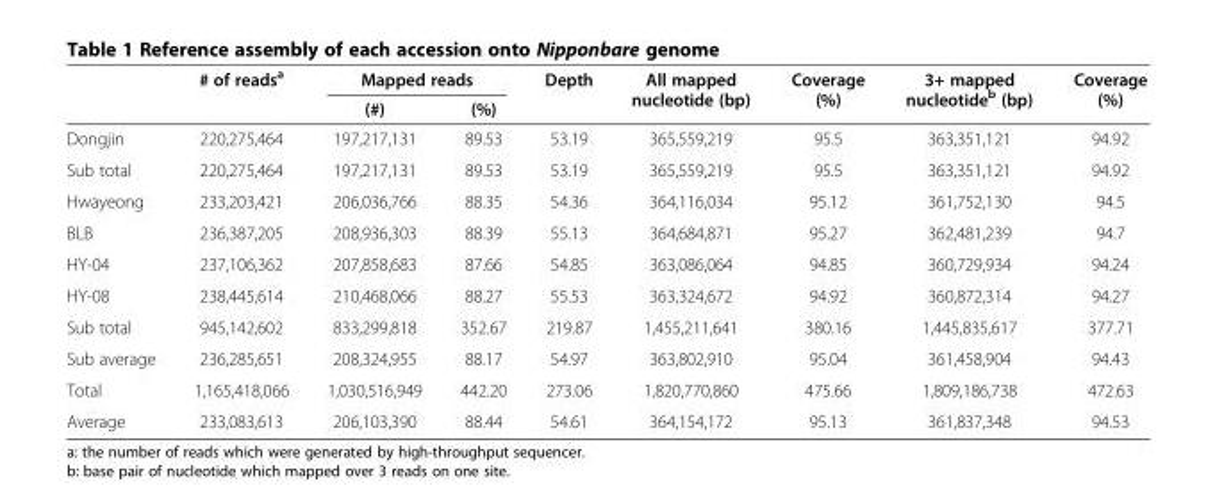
<table><thead><tr><td rowspan="2"></td><td rowspan="2"># of reads<sup>a</sup></td><td colspan="2">Mapped reads</td><td rowspan="2">Depth</td><td rowspan="2">All mapped nucleotide (bp)</td><td rowspan="2">Coverage (%)</td><td rowspan="2">3+ mapped nucleotide<sup>b</sup> (bp)</td><td rowspan="2">Coverage (%)</td></tr><tr><td>(#)</td><td>(%)</td></tr></thead><tbody><tr><td>Dongjin</td><td>220,275,464</td><td>197,217,131</td><td>89.53</td><td>53.19</td><td>365,559,219</td><td>95.5</td><td>363,351,121</td><td>94.92</td></tr><tr><td>Sub total</td><td>220,275,464</td><td>197,217,131</td><td>89.53</td><td>53.19</td><td>365,559,219</td><td>95.5</td><td>363,351,121</td><td>94.92</td></tr><tr><td>Hwayeong</td><td>233,203,421</td><td>206,036,766</td><td>88.35</td><td>54.36</td><td>364,116,034</td><td>95.12</td><td>361,752,130</td><td>94.5</td></tr><tr><td>BLB</td><td>236,387,205</td><td>208,936,303</td><td>88.39</td><td>55.13</td><td>364,684,871</td><td>95.27</td><td>362,481,239</td><td>94.7</td></tr><tr><td>HY-04</td><td>237,106,362</td><td>207,858,683</td><td>87.66</td><td>54.85</td><td>363,086,064</td><td>94.85</td><td>360,729,934</td><td>94.24</td></tr><tr><td>HY-08</td><td>238,445,614</td><td>210,468,066</td><td>88.27</td><td>55.53</td><td>363,324,672</td><td>94.92</td><td>360,872,314</td><td>94.27</td></tr><tr><td>Sub total</td><td>945,142,602</td><td>833,299,818</td><td>352.67</td><td>219.87</td><td>1,455,211,641</td><td>380.16</td><td>1,445,835,617</td><td>377.71</td></tr><tr><td>Sub average</td><td>236,285,651</td><td>208,324,955</td><td>88.17</td><td>54.97</td><td>363,802,910</td><td>95.04</td><td>361,458,904</td><td>94.43</td></tr><tr><td>Total</td><td>1,165,418,066</td><td>1,030,516,949</td><td>442.20</td><td>273.06</td><td>1,820,770,860</td><td>475.66</td><td>1,809,186,738</td><td>472.63</td></tr><tr><td>Average</td><td>233,083,613</td><td>206,103,390</td><td>88.44</td><td>54.61</td><td>364,154,172</td><td>95.13</td><td>361,837,348</td><td>94.53</td></tr></tbody></table>